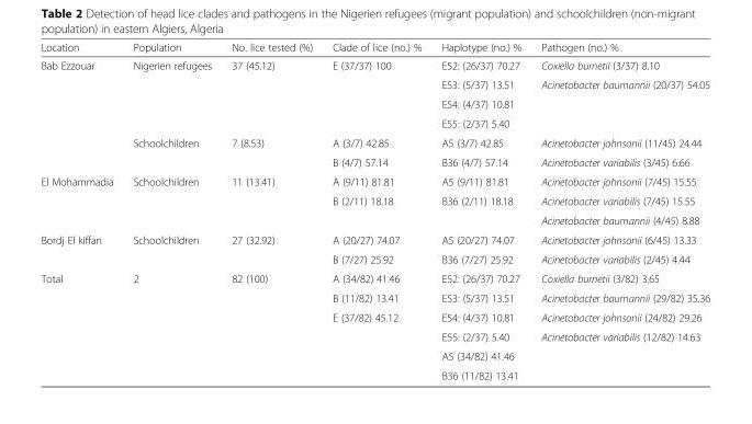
<table><thead><tr><td>Location</td><td>Population</td><td>No. lice tested (%)</td><td>Clade of lice (no.) %</td><td>Haplotype (no.) %</td><td>Pathogen (no.) %</td></tr></thead><tbody><tr><td rowspan="6">Bab Ezzouar</td><td rowspan="4">Nigerien refugees</td><td rowspan="4">37 (45.12)</td><td rowspan="4">E (37/37) 100</td><td>E52: (26/37) 70.27</td><td>Coxiella burnetii (3/37) 8.10</td></tr><tr><td>E53: (5/37) 13.51</td><td rowspan="3">Acinetobacter baumannii (20/37) 54.05</td></tr><tr><td>E54: (4/37) 10.81</td></tr><tr><td>E55: (2/37) 5.40</td></tr><tr><td rowspan="2">Schoolchildren</td><td rowspan="2">7 (8.53)</td><td>A (3/7) 42.85</td><td>A5 (3/7) 42.85</td><td>Acinetobacter johnsonii (11/45) 24.44</td></tr><tr><td>B (4/7) 57.14</td><td>B36 (4/7) 57.14</td><td>Acinetobacter variabilis (3/45) 6.66</td></tr><tr><td rowspan="3">El Mohammadia</td><td rowspan="3">Schoolchildren</td><td rowspan="3">11 (13.41)</td><td>A (9/11) 81.81</td><td>A5 (9/11) 81.81</td><td>Acinetobacter johnsonii (7/45) 15.55</td></tr><tr><td rowspan="2">B (2/11) 18.18</td><td rowspan="2">B36 (2/11) 18.18</td><td>Acinetobacter variabilis (7/45) 15.55</td></tr><tr><td>Acinetobacter baumannii (4/45) 8.88</td></tr><tr><td rowspan="2">Bordj El kiffan</td><td rowspan="2">Schoolchildren</td><td rowspan="2">27 (32.92)</td><td>A (20/27) 74.07</td><td>A5 (20/27) 74.07</td><td>Acinetobacter johnsonii (6/45) 13.33</td></tr><tr><td>B (7/27) 25.92</td><td>B36 (7/27) 25.92</td><td>Acinetobacter variabilis (2/45) 4.44</td></tr><tr><td rowspan="6">Total</td><td rowspan="6">2</td><td rowspan="6">82 (100)</td><td>A (34/82) 41.46</td><td>E52: (26/37) 70.27</td><td>Coxiella burnetii (3/82) 3.65</td></tr><tr><td>B (11/82) 13.41</td><td>E53: (5/37) 13.51</td><td>Acinetobacter baumannii (29/82) 35.36</td></tr><tr><td rowspan="4">E (37/82) 45.12</td><td>E54: (4/37) 10.81</td><td>Acinetobacter johnsonii (24/82) 29.26</td></tr><tr><td>E55: (2/37) 5.40</td><td rowspan="3">Acinetobacter variabilis (12/82) 14.63</td></tr><tr><td>A5 (34/82) 41.46</td></tr><tr><td>B36 (11/82) 13.41</td></tr></tbody></table>